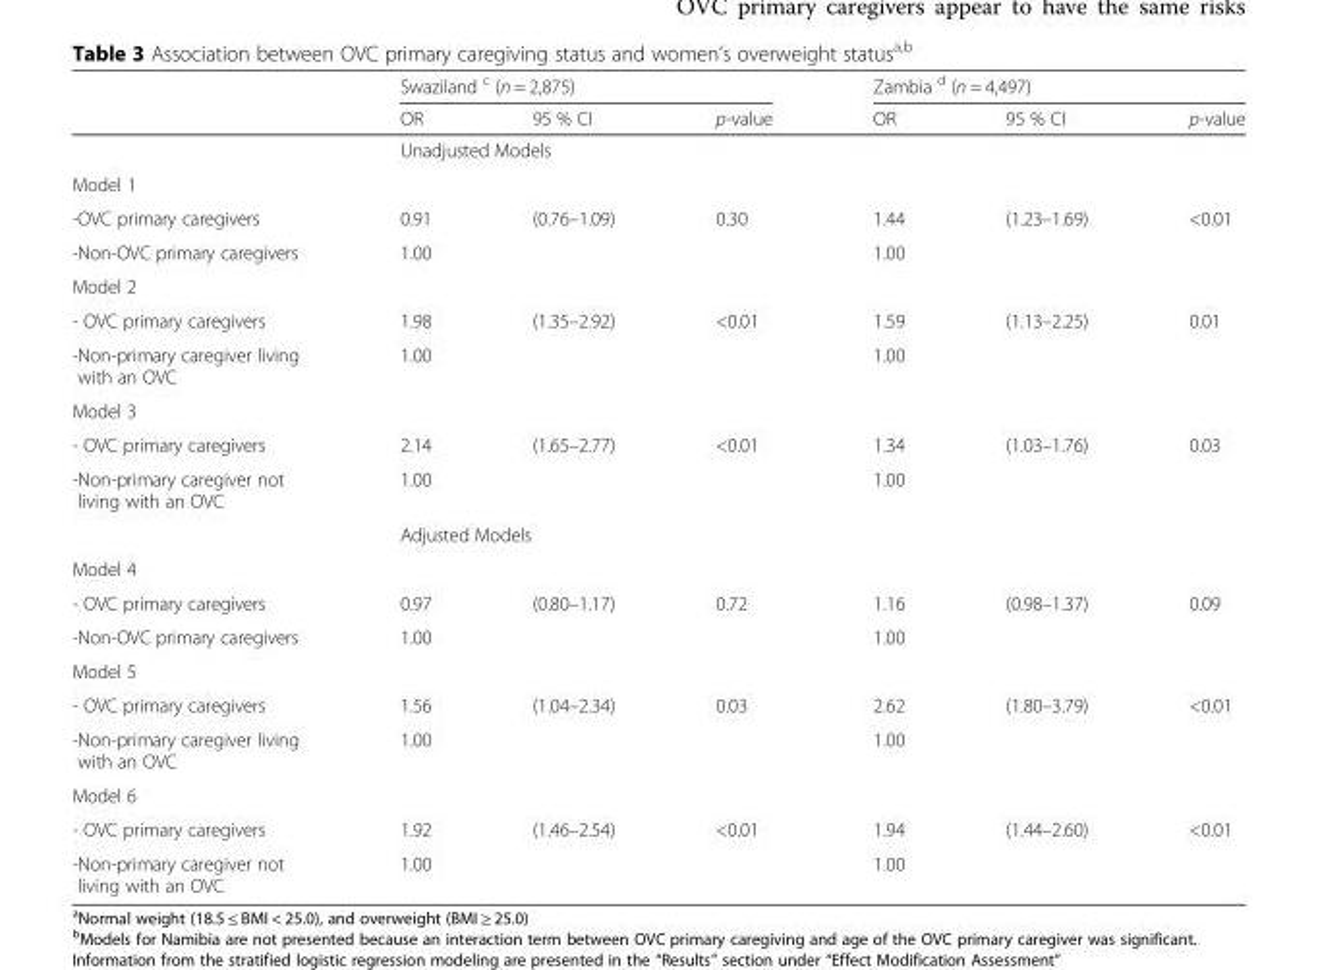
<table><thead><tr><td rowspan="2"></td><td colspan="3">Swaziland <sup>c</sup> (n = 2,875)</td><td colspan="3">Zambia <sup>d</sup> (n = 4,497)</td></tr><tr><td>OR</td><td>95 % CI</td><td>p-value</td><td>OR</td><td>95 % CI</td><td>p-value</td></tr></thead><tbody><tr><td></td><td colspan="6">Unadjusted Models</td></tr><tr><td colspan="7">Model 1</td></tr><tr><td>-OVC primary caregivers</td><td>0.91</td><td>(0.76–1.09)</td><td>0.30</td><td>1.44</td><td>(1.23–1.69)</td><td>&lt;0.01</td></tr><tr><td>-Non-OVC primary caregivers</td><td>1.00</td><td></td><td></td><td>1.00</td><td></td><td></td></tr><tr><td colspan="7">Model 2</td></tr><tr><td>- OVC primary caregivers</td><td>1.98</td><td>(1.35–2.92)</td><td>&lt;0.01</td><td>1.59</td><td>(1.13–2.25)</td><td>0.01</td></tr><tr><td>-Non-primary caregiver living with an OVC</td><td>1.00</td><td></td><td></td><td>1.00</td><td></td><td></td></tr><tr><td colspan="7">Model 3</td></tr><tr><td>- OVC primary caregivers</td><td>2.14</td><td>(1.65–2.77)</td><td>&lt;0.01</td><td>1.34</td><td>(1.03–1.76)</td><td>0.03</td></tr><tr><td rowspan="2">-Non-primary caregiver not living with an OVC</td><td>1.00</td><td></td><td></td><td>1.00</td><td></td><td></td></tr><tr><td colspan="6">Adjusted Models</td></tr><tr><td colspan="7">Model 4</td></tr><tr><td>- OVC primary caregivers</td><td>0.97</td><td>(0.80–1.17)</td><td>0.72</td><td>1.16</td><td>(0.98–1.37)</td><td>0.09</td></tr><tr><td>-Non-OVC primary caregivers</td><td>1.00</td><td></td><td></td><td>1.00</td><td></td><td></td></tr><tr><td colspan="7">Model 5</td></tr><tr><td>- OVC primary caregivers</td><td>1.56</td><td>(1.04–2.34)</td><td>0.03</td><td>2.62</td><td>(1.80–3.79)</td><td>&lt;0.01</td></tr><tr><td>-Non-primary caregiver living with an OVC</td><td>1.00</td><td></td><td></td><td>1.00</td><td></td><td></td></tr><tr><td colspan="7">Model 6</td></tr><tr><td>- OVC primary caregivers</td><td>1.92</td><td>(1.46–2.54)</td><td>&lt;0.01</td><td>1.94</td><td>(1.44–2.60)</td><td>&lt;0.01</td></tr><tr><td>-Non-primary caregiver not living with an OVC</td><td>1.00</td><td></td><td></td><td>1.00</td><td></td><td></td></tr></tbody></table>